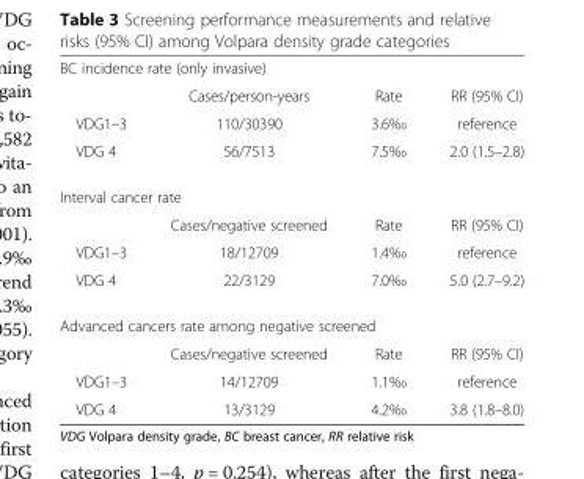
<table><tbody><tr><td colspan="4">BC incidence rate (only invasive)</td></tr><tr><td></td><td>Cases/person-years</td><td>Rate</td><td>RR (95% CI)</td></tr><tr><td>VDG1–3</td><td>110/30390</td><td>3.6‰</td><td>reference</td></tr><tr><td>VDG 4</td><td>56/7513</td><td>7.5‰</td><td>2.0 (1.5–2.8)</td></tr><tr><td colspan="4">Interval cancer rate</td></tr><tr><td></td><td>Cases/negative screened</td><td>Rate</td><td>RR (95% CI)</td></tr><tr><td>VDG1–3</td><td>18/12709</td><td>1.4‰</td><td>reference</td></tr><tr><td>VDG 4</td><td>22/3129</td><td>7.0‰</td><td>5.0 (2.7–9.2)</td></tr><tr><td colspan="4">Advanced cancers rate among negative screened</td></tr><tr><td></td><td>Cases/negative screened</td><td>Rate</td><td>RR (95% CI)</td></tr><tr><td>VDG1–3</td><td>14/12709</td><td>1.1‰</td><td>reference</td></tr><tr><td>VDG 4</td><td>13/3129</td><td>4.2‰</td><td>3.8 (1.8–8.0)</td></tr></tbody></table>